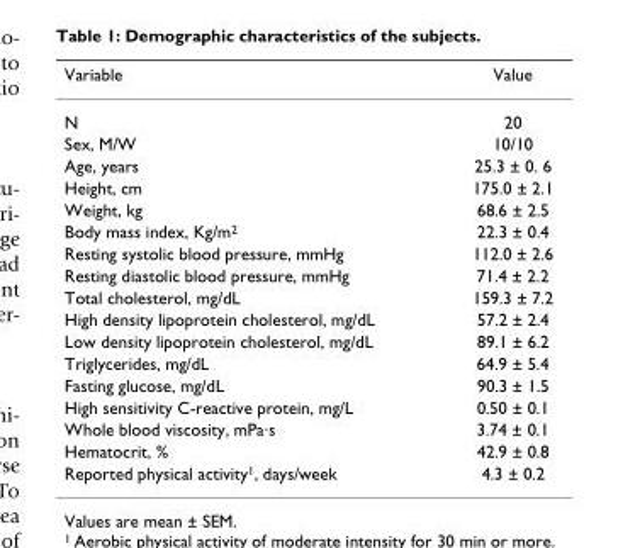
<table><thead><tr><td>Variable</td><td>Value</td></tr></thead><tbody><tr><td>N</td><td>20</td></tr><tr><td>Sex, M/W</td><td>10/10</td></tr><tr><td>Age, years</td><td>25.3 ± 0. 6</td></tr><tr><td>Height, cm</td><td>175.0 ± 2.1</td></tr><tr><td>Weight, kg</td><td>68.6 ± 2.5</td></tr><tr><td>Body mass index, Kg/m<sup>2</sup></td><td>22.3 ± 0.4</td></tr><tr><td>Resting systolic blood pressure, mmHg</td><td>112.0 ± 2.6</td></tr><tr><td>Resting diastolic blood pressure, mmHg</td><td>71.4 ± 2.2</td></tr><tr><td>Total cholesterol, mg/dL</td><td>159.3 ± 7.2</td></tr><tr><td>High density lipoprotein cholesterol, mg/dL</td><td>57.2 ± 2.4</td></tr><tr><td>Low density lipoprotein cholesterol, mg/dL</td><td>89.1 ± 6.2</td></tr><tr><td>Triglycerides, mg/dL</td><td>64.9 ± 5.4</td></tr><tr><td>Fasting glucose, mg/dL</td><td>90.3 ± 1.5</td></tr><tr><td>High sensitivity C-reactive protein, mg/L</td><td>0.50 ± 0.1</td></tr><tr><td>Whole blood viscosity, mPa·s</td><td>3.74 ± 0.1</td></tr><tr><td>Hematocrit, %</td><td>42.9 ± 0.8</td></tr><tr><td>Reported physical activity<sup>1</sup>, days/week</td><td>4.3 ± 0.2</td></tr></tbody></table>